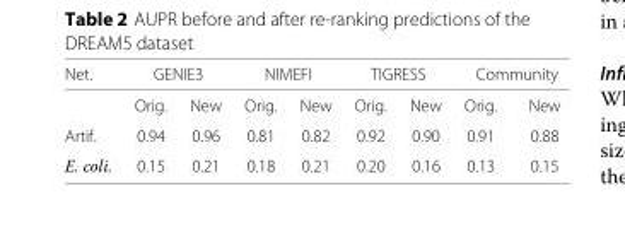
<table><thead><tr><td rowspan="2">Net.</td><td colspan="2">GENIE3</td><td colspan="2">NIMEFI</td><td colspan="2">TIGRESS</td><td colspan="2">Community</td></tr><tr><td>Orig.</td><td>New</td><td>Orig.</td><td>New</td><td>Orig.</td><td>New</td><td>Orig.</td><td>New</td></tr></thead><tbody><tr><td>Artif.</td><td>0.94</td><td>0.96</td><td>0.81</td><td>0.82</td><td>0.92</td><td>0.90</td><td>0.91</td><td>0.88</td></tr><tr><td>E. coli.</td><td>0.15</td><td>0.21</td><td>0.18</td><td>0.21</td><td>0.20</td><td>0.16</td><td>0.13</td><td>0.15</td></tr></tbody></table>